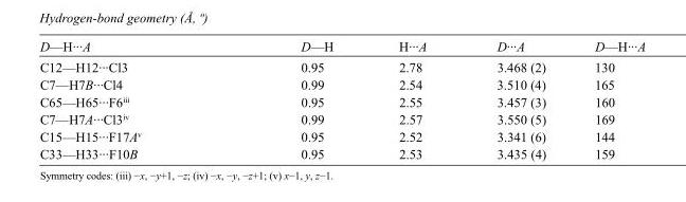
<table><tbody><tr><td>D—H···A</td><td>D—H</td><td>H···A</td><td>D···A</td><td>D—H···A</td></tr><tr><td>C12—H12···Cl3</td><td>0.95</td><td>2.78</td><td>3.468 (2)</td><td>130</td></tr><tr><td>C7—H7B···Cl4</td><td>0.99</td><td>2.54</td><td>3.510 (4)</td><td>165</td></tr><tr><td>C65—H65···F6<sup>iii</sup></td><td>0.95</td><td>2.55</td><td>3.457 (3)</td><td>160</td></tr><tr><td>C7—H7A···Cl3<sup>iv</sup></td><td>0.99</td><td>2.57</td><td>3.550 (5)</td><td>169</td></tr><tr><td>C15—H15···F17A<sup>v</sup></td><td>0.95</td><td>2.52</td><td>3.341 (6)</td><td>144</td></tr><tr><td>C33—H33···F10B</td><td>0.95</td><td>2.53</td><td>3.435 (4)</td><td>159</td></tr></tbody></table>